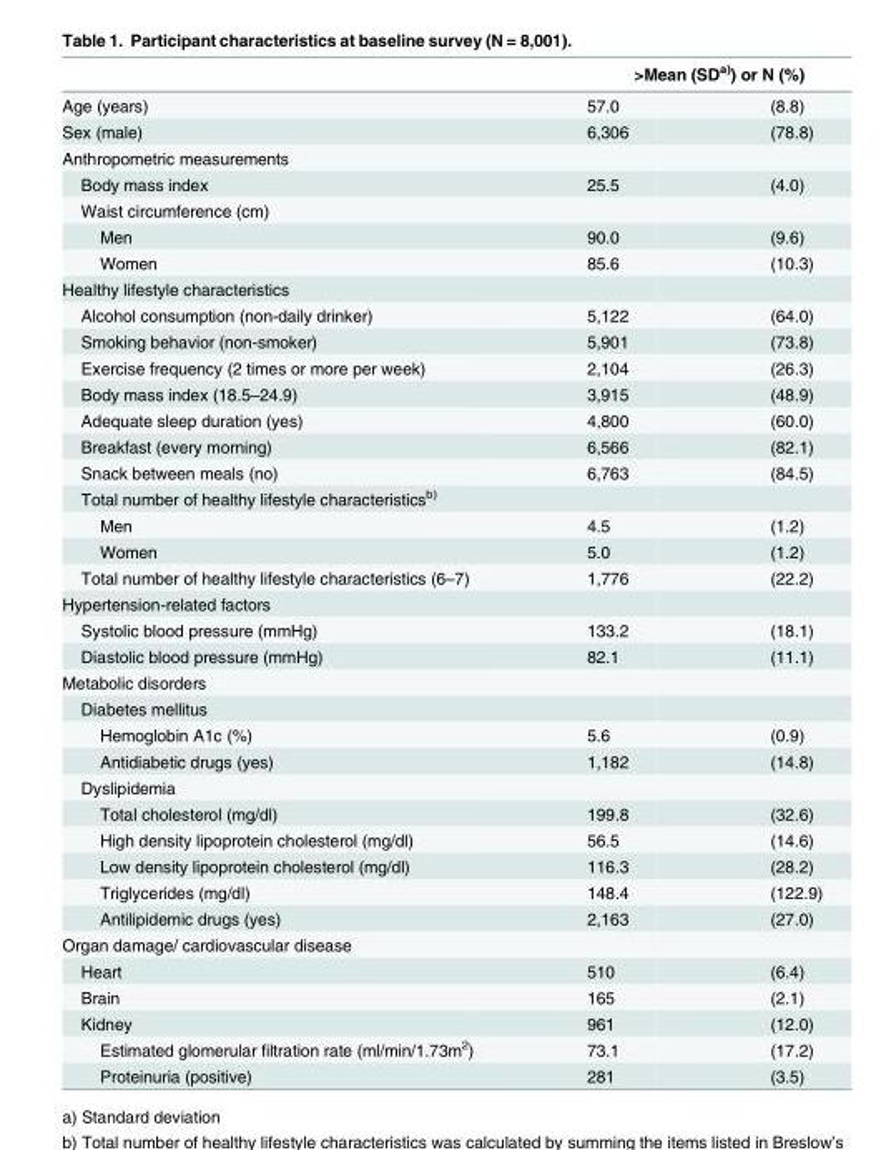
<table><thead><tr><td rowspan="2">Age (years)</td><td colspan="2">&gt;Mean (SDa)) or N (%)</td></tr><tr><td>57.0</td><td>(8.8)</td></tr></thead><tbody><tr><td>Sex (male)</td><td>6,306</td><td>(78.8)</td></tr><tr><td colspan="3">Anthropometric measurements</td></tr><tr><td>Body mass index</td><td>25.5</td><td>(4.0)</td></tr><tr><td colspan="3">Waist circumference (cm)</td></tr><tr><td>Men</td><td>90.0</td><td>(9.6)</td></tr><tr><td>Women</td><td>85.6</td><td>(10.3)</td></tr><tr><td colspan="3">Healthy lifestyle characteristics</td></tr><tr><td>Alcohol consumption (non-daily drinker)</td><td>5,122</td><td>(64.0)</td></tr><tr><td>Smoking behavior (non-smoker)</td><td>5,901</td><td>(73.8)</td></tr><tr><td>Exercise frequency (2 times or more per week)</td><td>2,104</td><td>(26.3)</td></tr><tr><td>Body mass index (18.5–24.9)</td><td>3,915</td><td>(48.9)</td></tr><tr><td>Adequate sleep duration (yes)</td><td>4,800</td><td>(60.0)</td></tr><tr><td>Breakfast (every morning)</td><td>6,566</td><td>(82.1)</td></tr><tr><td>Snack between meals (no)</td><td>6,763</td><td>(84.5)</td></tr><tr><td colspan="3">Total number of healthy lifestyle characteristics<sup>b)</sup></td></tr><tr><td>Men</td><td>4.5</td><td>(1.2)</td></tr><tr><td>Women</td><td>5.0</td><td>(1.2)</td></tr><tr><td>Total number of healthy lifestyle characteristics (6–7)</td><td>1,776</td><td>(22.2)</td></tr><tr><td colspan="3">Hypertension-related factors</td></tr><tr><td>Systolic blood pressure (mmHg)</td><td>133.2</td><td>(18.1)</td></tr><tr><td>Diastolic blood pressure (mmHg)</td><td>82.1</td><td>(11.1)</td></tr><tr><td colspan="3">Metabolic disorders</td></tr><tr><td colspan="3">Diabetes mellitus</td></tr><tr><td>Hemoglobin A1c (%)</td><td>5.6</td><td>(0.9)</td></tr><tr><td>Antidiabetic drugs (yes)</td><td>1,182</td><td>(14.8)</td></tr><tr><td colspan="3">Dyslipidemia</td></tr><tr><td>Total cholesterol (mg/dl)</td><td>199.8</td><td>(32.6)</td></tr><tr><td>High density lipoprotein cholesterol (mg/dl)</td><td>56.5</td><td>(14.6)</td></tr><tr><td>Low density lipoprotein cholesterol (mg/dl)</td><td>116.3</td><td>(28.2)</td></tr><tr><td>Triglycerides (mg/dl)</td><td>148.4</td><td>(122.9)</td></tr><tr><td>Antilipidemic drugs (yes)</td><td>2,163</td><td>(27.0)</td></tr><tr><td colspan="3">Organ damage/ cardiovascular disease</td></tr><tr><td>Heart</td><td>510</td><td>(6.4)</td></tr><tr><td>Brain</td><td>165</td><td>(2.1)</td></tr><tr><td>Kidney</td><td>961</td><td>(12.0)</td></tr><tr><td>Estimated glomerular filtration rate (ml/min/1.73m<sup>2</sup>)</td><td>73.1</td><td>(17.2)</td></tr><tr><td>Proteinuria (positive)</td><td>281</td><td>(3.5)</td></tr></tbody></table>